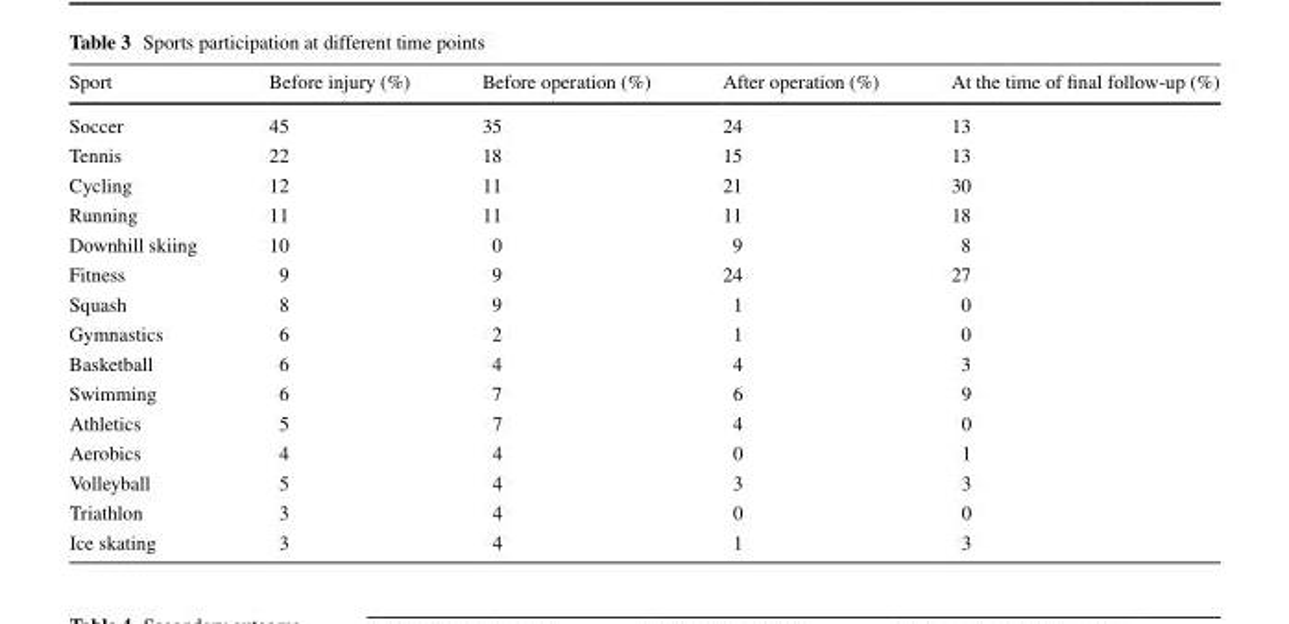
<table><thead><tr><td>Sport</td><td>Before injury (%)</td><td>Before operation (%)</td><td>After operation (%)</td><td>At the time of final follow-up (%)</td></tr></thead><tbody><tr><td>Soccer</td><td>45</td><td>35</td><td>24</td><td>13</td></tr><tr><td>Tennis</td><td>22</td><td>18</td><td>15</td><td>13</td></tr><tr><td>Cycling</td><td>12</td><td>11</td><td>21</td><td>30</td></tr><tr><td>Running</td><td>11</td><td>11</td><td>11</td><td>18</td></tr><tr><td>Downhill skiing</td><td>10</td><td>0</td><td>9</td><td>8</td></tr><tr><td>Fitness</td><td>9</td><td>9</td><td>24</td><td>27</td></tr><tr><td>Squash</td><td>8</td><td>9</td><td>1</td><td>0</td></tr><tr><td>Gymnastics</td><td>6</td><td>2</td><td>1</td><td>0</td></tr><tr><td>Basketball</td><td>6</td><td>4</td><td>4</td><td>3</td></tr><tr><td>Swimming</td><td>6</td><td>7</td><td>6</td><td>9</td></tr><tr><td>Athletics</td><td>5</td><td>7</td><td>4</td><td>0</td></tr><tr><td>Aerobics</td><td>4</td><td>4</td><td>0</td><td>1</td></tr><tr><td>Volleyball</td><td>5</td><td>4</td><td>3</td><td>3</td></tr><tr><td>Triathlon</td><td>3</td><td>4</td><td>0</td><td>0</td></tr><tr><td>Ice skating</td><td>3</td><td>4</td><td>1</td><td>3</td></tr></tbody></table>